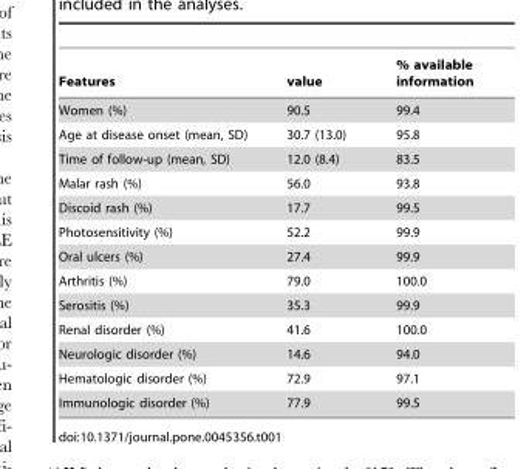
<table><thead><tr><td>Features</td><td>value</td><td>% available information</td></tr></thead><tbody><tr><td>Women (%)</td><td>90.5</td><td>99.4</td></tr><tr><td>Age at disease onset (mean, SD)</td><td>30.7 (13.0)</td><td>95.8</td></tr><tr><td>Time of follow-up (mean, SD)</td><td>12.0 (8.4)</td><td>83.5</td></tr><tr><td>Malar rash (%)</td><td>56.0</td><td>93.8</td></tr><tr><td>Discoid rash (%)</td><td>17.7</td><td>99.5</td></tr><tr><td>Photosensitivity (%)</td><td>52.2</td><td>99.9</td></tr><tr><td>Oral ulcers (%)</td><td>27.4</td><td>99.9</td></tr><tr><td>Arthritis (%)</td><td>79.0</td><td>100.0</td></tr><tr><td>Serositis (%)</td><td>35.3</td><td>99.9</td></tr><tr><td>Renal disorder (%)</td><td>41.6</td><td>100.0</td></tr><tr><td>Neurologic disorder (%)</td><td>14.6</td><td>94.0</td></tr><tr><td>Hematologic disorder (%)</td><td>72.9</td><td>97.1</td></tr><tr><td>Immunologic disorder (%)</td><td>77.9</td><td>99.5</td></tr></tbody></table>